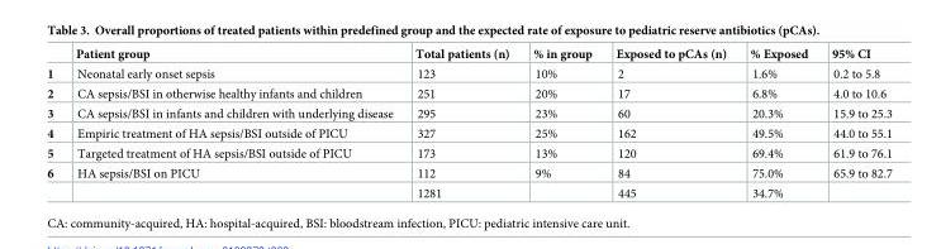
<table><thead><tr><td></td><td>Patient group</td><td>Total patients (n)</td><td>% in group</td><td>Exposed to pCAs (n)</td><td>% Exposed</td><td>95% CI</td></tr></thead><tbody><tr><td>1</td><td>Neonatal early onset sepsis</td><td>123</td><td>10%</td><td>2</td><td>1.6%</td><td>0.2 to 5.8</td></tr><tr><td>2</td><td>CA sepsis/BSI in otherwise healthy infants and children</td><td>251</td><td>20%</td><td>17</td><td>6.8%</td><td>4.0 to 10.6</td></tr><tr><td>3</td><td>CA sepsis/BSI in infants and children with underlying disease</td><td>295</td><td>23%</td><td>60</td><td>20.3%</td><td>15.9 to 25.3</td></tr><tr><td>4</td><td>Empiric treatment of HA sepsis/BSI outside of PICU</td><td>327</td><td>25%</td><td>162</td><td>49.5%</td><td>44.0 to 55.1</td></tr><tr><td>5</td><td>Targeted treatment of HA sepsis/BSI outside of PICU</td><td>173</td><td>13%</td><td>120</td><td>69.4%</td><td>61.9 to 76.1</td></tr><tr><td rowspan="2">6</td><td>HA sepsis/BSI on PICU</td><td>112</td><td>9%</td><td>84</td><td>75.0%</td><td>65.9 to 82.7</td></tr><tr><td></td><td>1281</td><td></td><td>445</td><td>34.7%</td><td></td></tr></tbody></table>